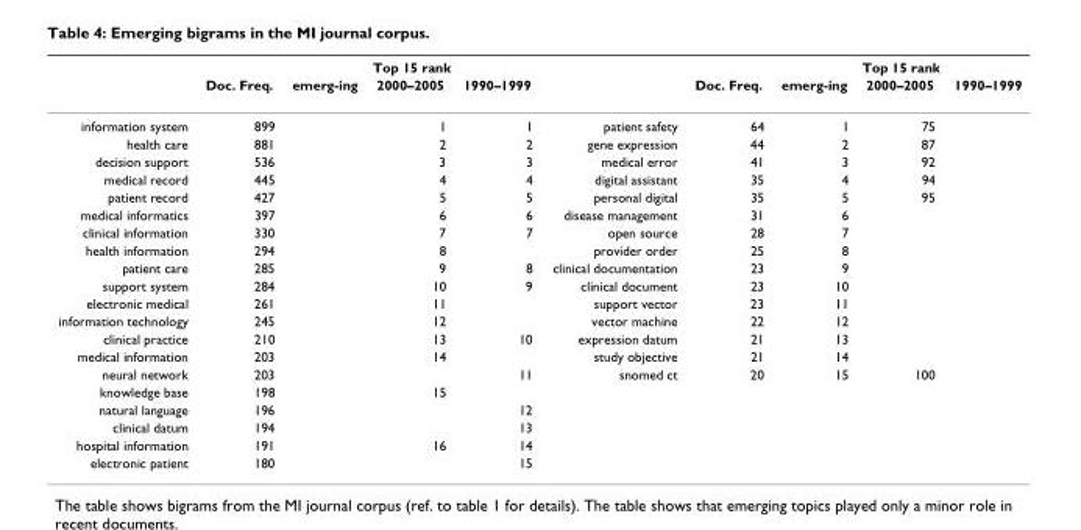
<table><thead><tr><td rowspan="2"></td><td rowspan="2">Doc. Freq.</td><td colspan="3">Top 15 rank</td><td rowspan="2"></td><td rowspan="2">Doc. Freq.</td><td colspan="3">Top 15 rank</td></tr><tr><td>emerg-ing</td><td>2000–2005</td><td>1990–1999</td><td>emerg-ing</td><td>2000–2005</td><td>1990–1999</td></tr></thead><tbody><tr><td>information system</td><td>899</td><td></td><td>1</td><td>1</td><td>patient safety</td><td>64</td><td>1</td><td>75</td><td></td></tr><tr><td>health care</td><td>881</td><td></td><td>2</td><td>2</td><td>gene expression</td><td>44</td><td>2</td><td>87</td><td></td></tr><tr><td>decision support</td><td>536</td><td></td><td>3</td><td>3</td><td>medical error</td><td>41</td><td>3</td><td>92</td><td></td></tr><tr><td>medical record</td><td>445</td><td></td><td>4</td><td>4</td><td>digital assistant</td><td>35</td><td>4</td><td>94</td><td></td></tr><tr><td>patient record</td><td>427</td><td></td><td>5</td><td>5</td><td>personal digital</td><td>35</td><td>5</td><td>95</td><td></td></tr><tr><td>medical informatics</td><td>397</td><td></td><td>6</td><td>6</td><td>disease management</td><td>31</td><td>6</td><td></td><td></td></tr><tr><td>clinical information</td><td>330</td><td></td><td>7</td><td>7</td><td>open source</td><td>28</td><td>7</td><td></td><td></td></tr><tr><td>health information</td><td>294</td><td></td><td>8</td><td></td><td>provider order</td><td>25</td><td>8</td><td></td><td></td></tr><tr><td>patient care</td><td>285</td><td></td><td>9</td><td>8</td><td>clinical documentation</td><td>23</td><td>9</td><td></td><td></td></tr><tr><td>support system</td><td>284</td><td></td><td>10</td><td>9</td><td>clinical document</td><td>23</td><td>10</td><td></td><td></td></tr><tr><td>electronic medical</td><td>261</td><td></td><td>11</td><td></td><td>support vector</td><td>23</td><td>11</td><td></td><td></td></tr><tr><td>information technology</td><td>245</td><td></td><td>12</td><td></td><td>vector machine</td><td>22</td><td>12</td><td></td><td></td></tr><tr><td>clinical practice</td><td>210</td><td></td><td>13</td><td>10</td><td>expression datum</td><td>21</td><td>13</td><td></td><td></td></tr><tr><td>medical information</td><td>203</td><td></td><td>14</td><td></td><td>study objective</td><td>21</td><td>14</td><td></td><td></td></tr><tr><td>neural network</td><td>203</td><td></td><td></td><td>11</td><td>snomed ct</td><td>20</td><td>15</td><td>100</td><td></td></tr><tr><td>knowledge base</td><td>198</td><td></td><td>15</td><td></td><td></td><td></td><td></td><td></td><td></td></tr><tr><td>natural language</td><td>196</td><td></td><td></td><td>12</td><td></td><td></td><td></td><td></td><td></td></tr><tr><td>clinical datum</td><td>194</td><td></td><td></td><td>13</td><td></td><td></td><td></td><td></td><td></td></tr><tr><td>hospital information</td><td>191</td><td></td><td>16</td><td>14</td><td></td><td></td><td></td><td></td><td></td></tr><tr><td>electronic patient</td><td>180</td><td></td><td></td><td>15</td><td></td><td></td><td></td><td></td><td></td></tr></tbody></table>